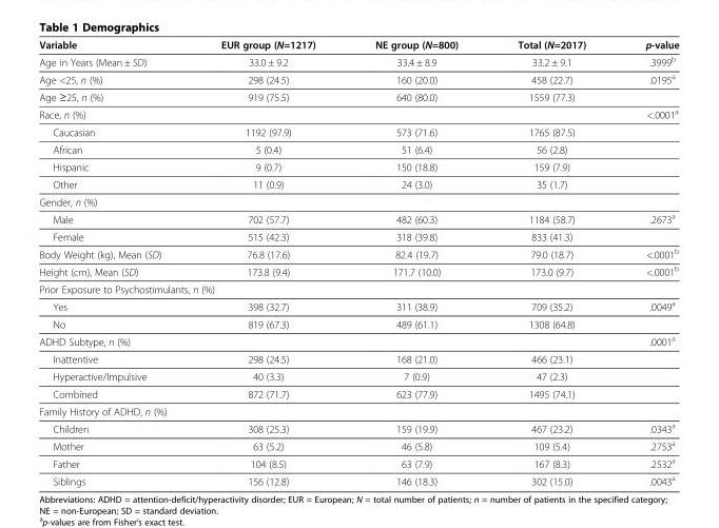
<table><thead><tr><td>Variable</td><td>EUR group (N=1217)</td><td>NE group (N=800)</td><td>Total (N=2017)</td><td>p-value</td></tr></thead><tbody><tr><td>Age in Years (Mean ± SD)</td><td>33.0 ± 9.2</td><td>33.4 ± 8.9</td><td>33.2 ± 9.1</td><td>.3999<sup>b</sup></td></tr><tr><td>Age &lt;25, n (%)</td><td>298 (24.5)</td><td>160 (20.0)</td><td>458 (22.7)</td><td>.0195<sup>a</sup></td></tr><tr><td>Age ≥25, n (%)</td><td>919 (75.5)</td><td>640 (80.0)</td><td>1559 (77.3)</td><td></td></tr><tr><td>Race, n (%)</td><td></td><td></td><td></td><td>&lt;.0001<sup>a</sup></td></tr><tr><td>Caucasian</td><td>1192 (97.9)</td><td>573 (71.6)</td><td>1765 (87.5)</td><td></td></tr><tr><td>African</td><td>5 (0.4)</td><td>51 (6.4)</td><td>56 (2.8)</td><td></td></tr><tr><td>Hispanic</td><td>9 (0.7)</td><td>150 (18.8)</td><td>159 (7.9)</td><td></td></tr><tr><td>Other</td><td>11 (0.9)</td><td>24 (3.0)</td><td>35 (1.7)</td><td></td></tr><tr><td colspan="5">Gender, n (%)</td></tr><tr><td>Male</td><td>702 (57.7)</td><td>482 (60.3)</td><td>1184 (58.7)</td><td>.2673<sup>a</sup></td></tr><tr><td>Female</td><td>515 (42.3)</td><td>318 (39.8)</td><td>833 (41.3)</td><td></td></tr><tr><td>Body Weight (kg), Mean (SD)</td><td>76.8 (17.6)</td><td>82.4 (19.7)</td><td>79.0 (18.7)</td><td>&lt;.0001<sup>b</sup></td></tr><tr><td>Height (cm), Mean (SD)</td><td>173.8 (9.4)</td><td>171.7 (10.0)</td><td>173.0 (9.7)</td><td>&lt;.0001<sup>b</sup></td></tr><tr><td colspan="5">Prior Exposure to Psychostimulants, n (%)</td></tr><tr><td>Yes</td><td>398 (32.7)</td><td>311 (38.9)</td><td>709 (35.2)</td><td>.0049<sup>a</sup></td></tr><tr><td>No</td><td>819 (67.3)</td><td>489 (61.1)</td><td>1308 (64.8)</td><td></td></tr><tr><td colspan="2">ADHD Subtype, n (%)</td><td></td><td></td><td>.0001<sup>a</sup></td></tr><tr><td>Inattentive</td><td>298 (24.5)</td><td>168 (21.0)</td><td>466 (23.1)</td><td></td></tr><tr><td>Hyperactive/Impulsive</td><td>40 (3.3)</td><td>7 (0.9)</td><td>47 (2.3)</td><td></td></tr><tr><td>Combined</td><td>872 (71.7)</td><td>623 (77.9)</td><td>1495 (74.1)</td><td></td></tr><tr><td colspan="5">Family History of ADHD, n (%)</td></tr><tr><td>Children</td><td>308 (25.3)</td><td>159 (19.9)</td><td>467 (23.2)</td><td>.0343<sup>a</sup></td></tr><tr><td>Mother</td><td>63 (5.2)</td><td>46 (5.8)</td><td>109 (5.4)</td><td>.2753<sup>a</sup></td></tr><tr><td>Father</td><td>104 (8.5)</td><td>63 (7.9)</td><td>167 (8.3)</td><td>.2532<sup>a</sup></td></tr><tr><td>Siblings</td><td>156 (12.8)</td><td>146 (18.3)</td><td>302 (15.0)</td><td>.0043<sup>a</sup></td></tr></tbody></table>